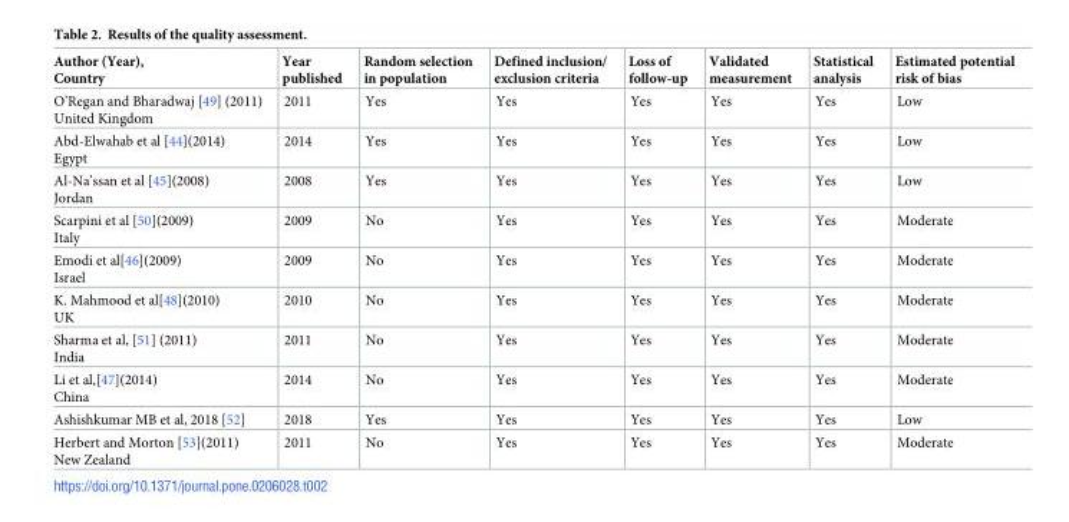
<table><thead><tr><td>Author (Year), Country</td><td>Year published</td><td>Random selection in population</td><td>Defined inclusion/ exclusion criteria</td><td>Loss of follow-up</td><td>Validated measurement</td><td>Statistical analysis</td><td>Estimated potential risk of bias</td></tr></thead><tbody><tr><td>O’Regan and Bharadwaj [49] (2011) United Kingdom</td><td>2011</td><td>Yes</td><td>Yes</td><td>Yes</td><td>Yes</td><td>Yes</td><td>Low</td></tr><tr><td>Abd-Elwahab et al [44](2014) Egypt</td><td>2014</td><td>Yes</td><td>Yes</td><td>Yes</td><td>Yes</td><td>Yes</td><td>Low</td></tr><tr><td>Al-Na’ssan et al [45](2008) Jordan</td><td>2008</td><td>Yes</td><td>Yes</td><td>Yes</td><td>Yes</td><td>Yes</td><td>Low</td></tr><tr><td>Scarpini et al [50](2009) Italy</td><td>2009</td><td>No</td><td>Yes</td><td>Yes</td><td>Yes</td><td>Yes</td><td>Moderate</td></tr><tr><td>Emodi et al[46](2009) Israel</td><td>2009</td><td>No</td><td>Yes</td><td>Yes</td><td>Yes</td><td>Yes</td><td>Moderate</td></tr><tr><td>K. Mahmood et al[48](2010) UK</td><td>2010</td><td>No</td><td>Yes</td><td>Yes</td><td>Yes</td><td>Yes</td><td>Moderate</td></tr><tr><td>Sharma et al, [51] (2011) India</td><td>2011</td><td>No</td><td>Yes</td><td>Yes</td><td>Yes</td><td>Yes</td><td>Moderate</td></tr><tr><td>Li et al,[47](2014) China</td><td>2014</td><td>No</td><td>Yes</td><td>Yes</td><td>Yes</td><td>Yes</td><td>Moderate</td></tr><tr><td>Ashishkumar MB et al, 2018 [52]</td><td>2018</td><td>Yes</td><td>Yes</td><td>Yes</td><td>Yes</td><td>Yes</td><td>Low</td></tr><tr><td>Herbert and Morton [53](2011) New Zealand</td><td>2011</td><td>No</td><td>Yes</td><td>Yes</td><td>Yes</td><td>Yes</td><td>Moderate</td></tr></tbody></table>